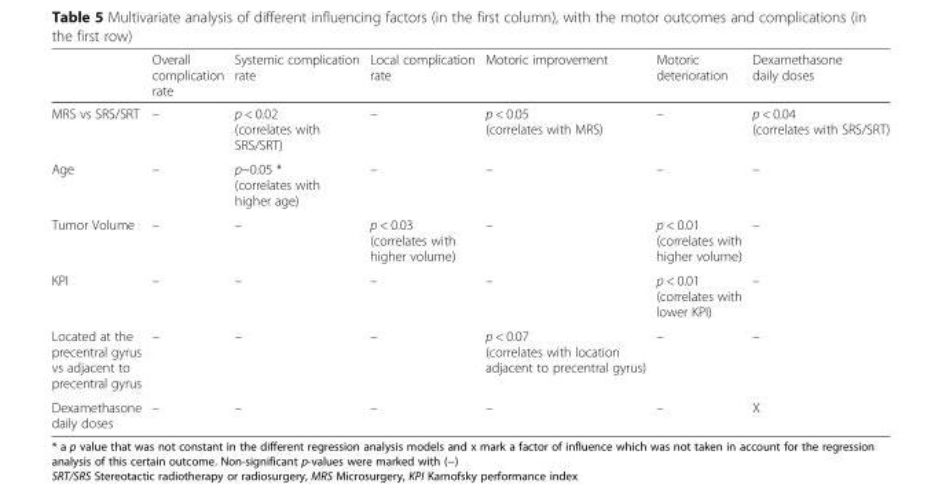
<table><thead><tr><td></td><td>Overall complication rate</td><td>Systemic complication rate</td><td>Local complication rate</td><td>Motoric improvement</td><td>Motoric deterioration</td><td>Dexamethasone daily doses</td></tr></thead><tbody><tr><td>MRS vs SRS/SRT</td><td>–</td><td>p &lt; 0.02 (correlates with SRS/SRT)</td><td>–</td><td>p &lt; 0.05 (correlates with MRS)</td><td>–</td><td>p &lt; 0.04 (correlates with SRS/SRT)</td></tr><tr><td>Age</td><td>–</td><td>p~0.05 * (correlates with higher age)</td><td>–</td><td>–</td><td>–</td><td>–</td></tr><tr><td>Tumor Volume</td><td>–</td><td>–</td><td>p &lt; 0.03 (correlates with higher volume)</td><td>–</td><td>p &lt; 0.01 (correlates with higher volume)</td><td>–</td></tr><tr><td>KPI</td><td>–</td><td>–</td><td>–</td><td>–</td><td>p &lt; 0.01 (correlates with lower KPI)</td><td>–</td></tr><tr><td>Located at the precentral gyrus vs adjacent to precentral gyrus</td><td>–</td><td>–</td><td>–</td><td>p &lt; 0.07 (correlates with location adjacent to precentral gyrus)</td><td>–</td><td>–</td></tr><tr><td>Dexamethasone daily doses</td><td>–</td><td>–</td><td>–</td><td>–</td><td>–</td><td>X</td></tr></tbody></table>